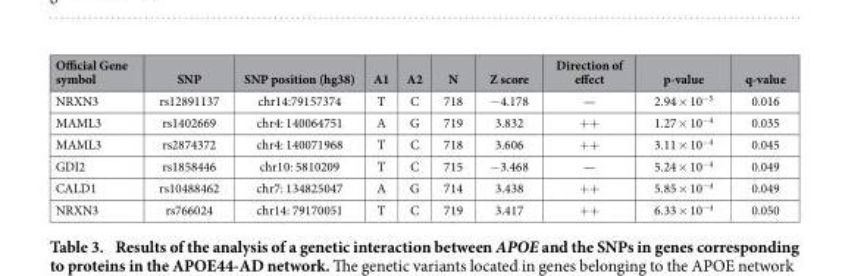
<table><thead><tr><td>Official Gene symbol</td><td>SNP</td><td>SNP position (hg38)</td><td>A1</td><td>A2</td><td>N</td><td>Z score</td><td>Direction of effect</td><td>p-value</td><td>q-value</td></tr></thead><tbody><tr><td>NRXN3</td><td>rs12891137</td><td>chr14:79157374</td><td>T</td><td>C</td><td>718</td><td>− 4.178</td><td>—</td><td>2.94 × 10<sup>−5</sup></td><td>0.016</td></tr><tr><td>MAML3</td><td>rs1402669</td><td>chr4: 140064751</td><td>A</td><td>G</td><td>719</td><td>3.832</td><td>+ +</td><td>1.27 × 10<sup>−4</sup></td><td>0.035</td></tr><tr><td>MAML3</td><td>rs2874372</td><td>chr4: 140071968</td><td>T</td><td>C</td><td>718</td><td>3.606</td><td>+ +</td><td>3.11 × 10<sup>−4</sup></td><td>0.045</td></tr><tr><td>GDI2</td><td>rs1858446</td><td>chr10: 5810209</td><td>T</td><td>C</td><td>715</td><td>− 3.468</td><td>—</td><td>5.24 × 10<sup>−4</sup></td><td>0.049</td></tr><tr><td>CALD1</td><td>rs10488462</td><td>chr7: 134825047</td><td>A</td><td>G</td><td>714</td><td>3.438</td><td>+ +</td><td>5.85 × 10<sup>−4</sup></td><td>0.049</td></tr><tr><td>NRXN3</td><td>rs766024</td><td>chr14: 79170051</td><td>T</td><td>C</td><td>719</td><td>3.417</td><td>+ +</td><td>6.33 × 10<sup>−4</sup></td><td>0.050</td></tr></tbody></table>